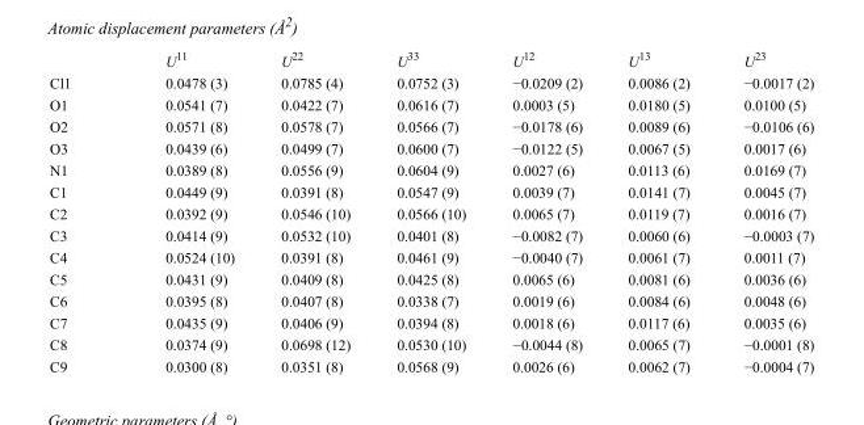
<table><thead><tr><td></td><td>U<sup>11</sup></td><td>U<sup>22</sup></td><td>U<sup>33</sup></td><td>U<sup>12</sup></td><td>U<sup>13</sup></td><td>U<sup>23</sup></td></tr></thead><tbody><tr><td>Cl1</td><td>0.0478 (3)</td><td>0.0785 (4)</td><td>0.0752 (3)</td><td>−0.0209 (2)</td><td>0.0086 (2)</td><td>−0.0017 (2)</td></tr><tr><td>O1</td><td>0.0541 (7)</td><td>0.0422 (7)</td><td>0.0616 (7)</td><td>0.0003 (5)</td><td>0.0180 (5)</td><td>0.0100 (5)</td></tr><tr><td>O2</td><td>0.0571 (8)</td><td>0.0578 (7)</td><td>0.0566 (7)</td><td>−0.0178 (6)</td><td>0.0089 (6)</td><td>−0.0106 (6)</td></tr><tr><td>O3</td><td>0.0439 (6)</td><td>0.0499 (7)</td><td>0.0600 (7)</td><td>−0.0122 (5)</td><td>0.0067 (5)</td><td>0.0017 (6)</td></tr><tr><td>N1</td><td>0.0389 (8)</td><td>0.0556 (9)</td><td>0.0604 (9)</td><td>0.0027 (6)</td><td>0.0113 (6)</td><td>0.0169 (7)</td></tr><tr><td>C1</td><td>0.0449 (9)</td><td>0.0391 (8)</td><td>0.0547 (9)</td><td>0.0039 (7)</td><td>0.0141 (7)</td><td>0.0045 (7)</td></tr><tr><td>C2</td><td>0.0392 (9)</td><td>0.0546 (10)</td><td>0.0566 (10)</td><td>0.0065 (7)</td><td>0.0119 (7)</td><td>0.0016 (7)</td></tr><tr><td>C3</td><td>0.0414 (9)</td><td>0.0532 (10)</td><td>0.0401 (8)</td><td>−0.0082 (7)</td><td>0.0060 (6)</td><td>−0.0003 (7)</td></tr><tr><td>C4</td><td>0.0524 (10)</td><td>0.0391 (8)</td><td>0.0461 (9)</td><td>−0.0040 (7)</td><td>0.0061 (7)</td><td>0.0011 (7)</td></tr><tr><td>C5</td><td>0.0431 (9)</td><td>0.0409 (8)</td><td>0.0425 (8)</td><td>0.0065 (6)</td><td>0.0081 (6)</td><td>0.0036 (6)</td></tr><tr><td>C6</td><td>0.0395 (8)</td><td>0.0407 (8)</td><td>0.0338 (7)</td><td>0.0019 (6)</td><td>0.0084 (6)</td><td>0.0048 (6)</td></tr><tr><td>C7</td><td>0.0435 (9)</td><td>0.0406 (9)</td><td>0.0394 (8)</td><td>0.0018 (6)</td><td>0.0117 (6)</td><td>0.0035 (6)</td></tr><tr><td>C8</td><td>0.0374 (9)</td><td>0.0698 (12)</td><td>0.0530 (10)</td><td>−0.0044 (8)</td><td>0.0065 (7)</td><td>−0.0001 (8)</td></tr><tr><td>C9</td><td>0.0300 (8)</td><td>0.0351 (8)</td><td>0.0568 (9)</td><td>0.0026 (6)</td><td>0.0062 (7)</td><td>−0.0004 (7)</td></tr></tbody></table>